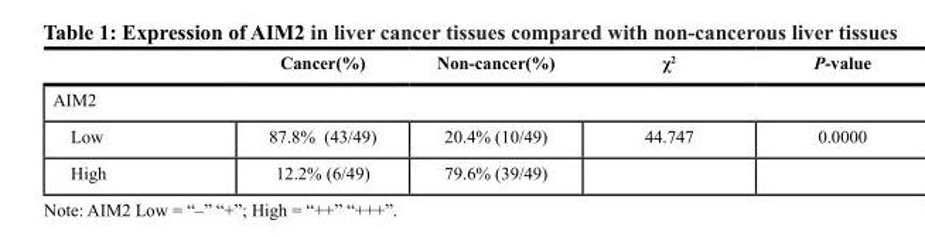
<table><thead><tr><td></td><td>Cancer(%)</td><td>Non-cancer(%)</td><td>χ<sup>2</sup></td><td>P-value</td></tr></thead><tbody><tr><td colspan="5">AIM2</td></tr><tr><td>Low</td><td>87.8% (43/49)</td><td>20.4% (10/49)</td><td>44.747</td><td>0.0000</td></tr><tr><td>High</td><td>12.2% (6/49)</td><td>79.6% (39/49)</td><td></td><td></td></tr></tbody></table>